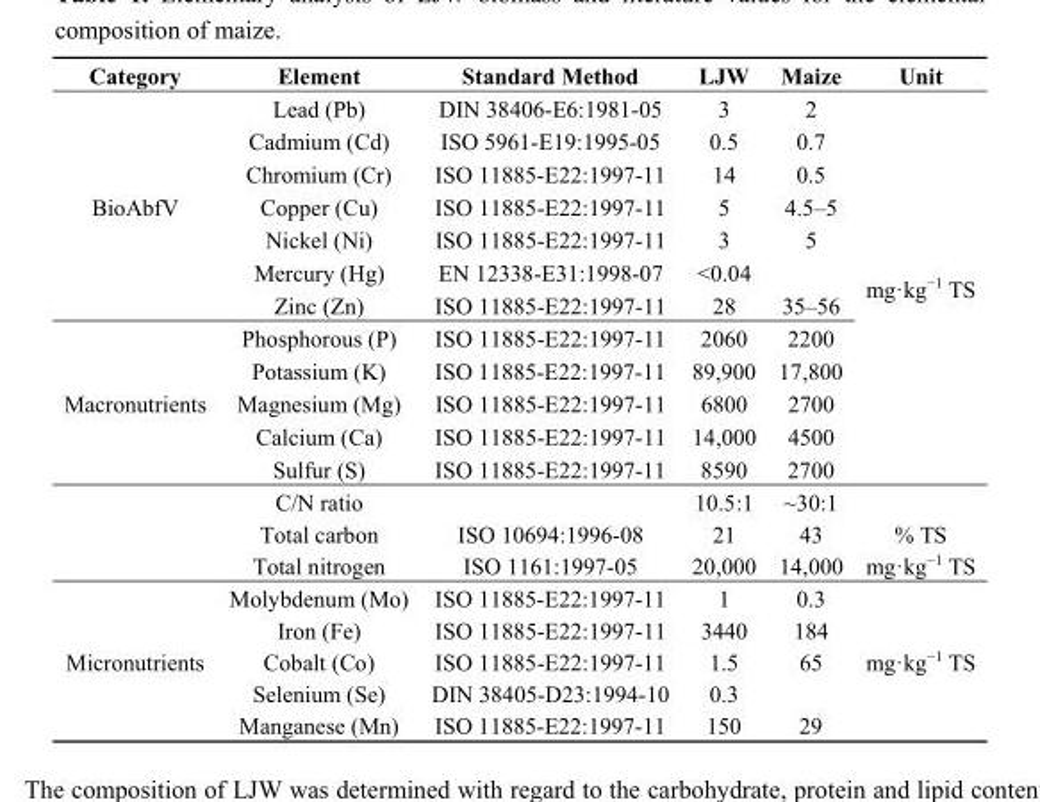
<table><thead><tr><td>Category</td><td>Element</td><td>Standard Method</td><td>LJW</td><td>Maize</td><td>Unit</td></tr></thead><tbody><tr><td rowspan="7">BioAbfV</td><td>Lead (Pb)</td><td>DIN 38406-E6:1981-05</td><td>3</td><td>2</td><td rowspan="12">mg·kg<sup>−1</sup> TS</td></tr><tr><td>Cadmium (Cd)</td><td>ISO 5961-E19:1995-05</td><td>0.5</td><td>0.7</td></tr><tr><td>Chromium (Cr)</td><td>ISO 11885-E22:1997-11</td><td>14</td><td>0.5</td></tr><tr><td>Copper (Cu)</td><td>ISO 11885-E22:1997-11</td><td>5</td><td>4.5–5</td></tr><tr><td>Nickel (Ni)</td><td>ISO 11885-E22:1997-11</td><td>3</td><td>5</td></tr><tr><td>Mercury (Hg)</td><td>EN 12338-E31:1998-07</td><td>&lt;0.04</td><td></td></tr><tr><td>Zinc (Zn)</td><td>ISO 11885-E22:1997-11</td><td>28</td><td>35–56</td></tr><tr><td rowspan="8">Macronutrients</td><td>Phosphorous (P)</td><td>ISO 11885-E22:1997-11</td><td>2060</td><td>2200</td></tr><tr><td>Potassium (K)</td><td>ISO 11885-E22:1997-11</td><td>89,900</td><td>17,800</td></tr><tr><td>Magnesium (Mg)</td><td>ISO 11885-E22:1997-11</td><td>6800</td><td>2700</td></tr><tr><td>Calcium (Ca)</td><td>ISO 11885-E22:1997-11</td><td>14,000</td><td>4500</td></tr><tr><td>Sulfur (S)</td><td>ISO 11885-E22:1997-11</td><td>8590</td><td>2700</td></tr><tr><td>C/N ratio</td><td></td><td>10.5:1</td><td>~30:1</td><td></td></tr><tr><td>Total carbon</td><td>ISO 10694:1996-08</td><td>21</td><td>43</td><td>% TS</td></tr><tr><td>Total nitrogen</td><td>ISO 1161:1997-05</td><td>20,000</td><td>14,000</td><td>mg·kg<sup>−1</sup> TS</td></tr><tr><td rowspan="5">Micronutrients</td><td>Molybdenum (Mo)</td><td>ISO 11885-E22:1997-11</td><td>1</td><td>0.3</td><td rowspan="5">mg·kg<sup>−1</sup> TS</td></tr><tr><td>Iron (Fe)</td><td>ISO 11885-E22:1997-11</td><td>3440</td><td>184</td></tr><tr><td>Cobalt (Co)</td><td>ISO 11885-E22:1997-11</td><td>1.5</td><td>65</td></tr><tr><td>Selenium (Se)</td><td>DIN 38405-D23:1994-10</td><td>0.3</td><td></td></tr><tr><td>Manganese (Mn)</td><td>ISO 11885-E22:1997-11</td><td>150</td><td>29</td></tr></tbody></table>